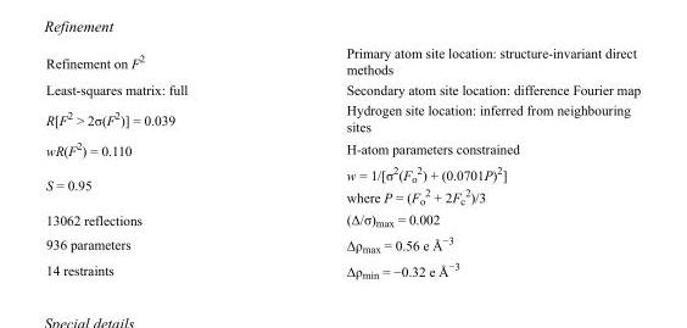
<table><tbody><tr><td>Refinement on F<sup>2</sup></td><td>Primary atom site location: structure-invariant direct methods</td></tr><tr><td>Least-squares matrix: full</td><td>Secondary atom site location: difference Fourier map</td></tr><tr><td>R[F<sup>2</sup> &gt; 2σ(F<sup>2</sup>)] = 0.039</td><td>Hydrogen site location: inferred from neighbouring sites</td></tr><tr><td>wR(F<sup>2</sup>) = 0.110</td><td>H-atom parameters constrained</td></tr><tr><td>S = 0.95</td><td>w = 1/[σ<sup>2</sup>(F<sub>o</sub> <sup>2</sup>) + (0.0701P)<sup>2</sup>] where P = (F<sub>o</sub> <sup>2</sup> + 2F<sub>c</sub> <sup>2</sup>)/3</td></tr><tr><td>13062 reflections</td><td>(Δ/σ)<sub>max</sub> = 0.002</td></tr><tr><td>936 parameters</td><td>Δρ<sub>max</sub> = 0.56 e Å<sup>−3</sup></td></tr><tr><td>14 restraints</td><td>Δρ<sub>min</sub> = −0.32 e Å<sup>−3</sup></td></tr></tbody></table>